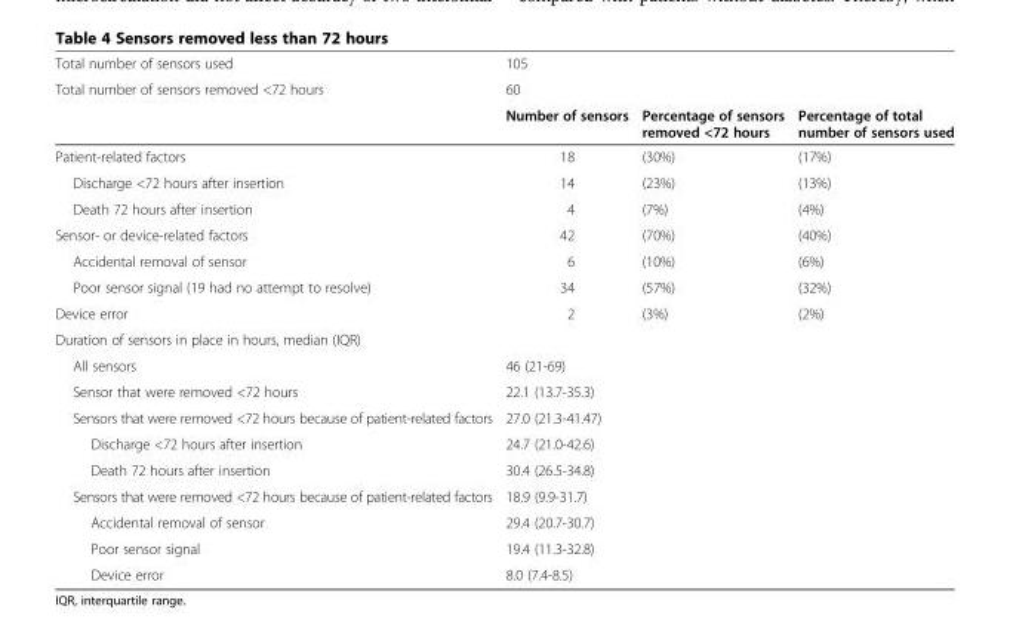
<table><tbody><tr><td>Total number of sensors used</td><td colspan="3">105</td></tr><tr><td rowspan="2">Total number of sensors removed &lt;72 hours</td><td colspan="3">60</td></tr><tr><td>Number of sensors</td><td>Percentage of sensors removed &lt;72 hours</td><td>Percentage of total number of sensors used</td></tr><tr><td>Patient-related factors</td><td>18</td><td>(30%)</td><td>(17%)</td></tr><tr><td>Discharge &lt;72 hours after insertion</td><td>14</td><td>(23%)</td><td>(13%)</td></tr><tr><td>Death 72 hours after insertion</td><td>4</td><td>(7%)</td><td>(4%)</td></tr><tr><td>Sensor- or device-related factors</td><td>42</td><td>(70%)</td><td>(40%)</td></tr><tr><td>Accidental removal of sensor</td><td>6</td><td>(10%)</td><td>(6%)</td></tr><tr><td>Poor sensor signal (19 had no attempt to resolve)</td><td>34</td><td>(57%)</td><td>(32%)</td></tr><tr><td>Device error</td><td>2</td><td>(3%)</td><td>(2%)</td></tr><tr><td colspan="4">Duration of sensors in place in hours, median (IQR)</td></tr><tr><td>All sensors</td><td colspan="3">46 (21-69)</td></tr><tr><td>Sensor that were removed &lt;72 hours</td><td colspan="3">22.1 (13.7-35.3)</td></tr><tr><td>Sensors that were removed &lt;72 hours because of patient-related factors</td><td colspan="3">27.0 (21.3-41.47)</td></tr><tr><td>Discharge &lt;72 hours after insertion</td><td colspan="3">24.7 (21.0-42.6)</td></tr><tr><td>Death 72 hours after insertion</td><td colspan="3">30.4 (26.5-34.8)</td></tr><tr><td>Sensors that were removed &lt;72 hours because of patient-related factors</td><td colspan="3">18.9 (9.9-31.7)</td></tr><tr><td>Accidental removal of sensor</td><td colspan="3">29.4 (20.7-30.7)</td></tr><tr><td>Poor sensor signal</td><td colspan="3">19.4 (11.3-32.8)</td></tr><tr><td>Device error</td><td colspan="3">8.0 (7.4-8.5)</td></tr></tbody></table>